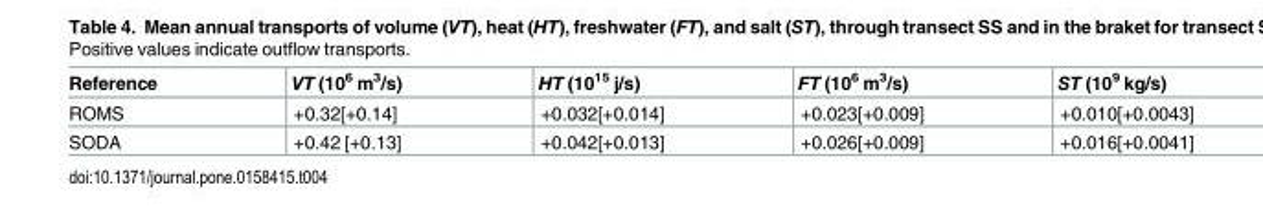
<table><thead><tr><td>Reference</td><td>VT (10<sup>6</sup> m<sup>3</sup>/s)</td><td>HT (10<sup>15</sup> j/s)</td><td>FT (10<sup>6</sup> m<sup>3</sup>/s)</td><td>ST (10<sup>9</sup> kg/s)</td></tr></thead><tbody><tr><td>ROMS</td><td>+0.32[+0.14]</td><td>+0.032[+0.014]</td><td>+0.023[+0.009]</td><td>+0.010[+0.0043]</td></tr><tr><td>SODA</td><td>+0.42 [+0.13]</td><td>+0.042[+0.013]</td><td>+0.026[+0.009]</td><td>+0.016[+0.0041]</td></tr></tbody></table>